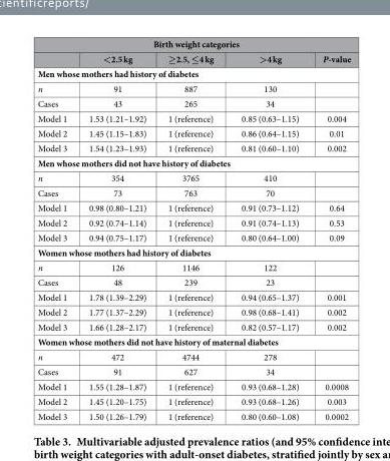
<table><thead><tr><td colspan="5">Birth weight categories</td></tr><tr><td></td><td>&lt;2.5 kg</td><td>≥2.5, ≤4 kg</td><td>&gt;4 kg</td><td>P-value</td></tr></thead><tbody><tr><td colspan="5">Men whose mothers had history of diabetes</td></tr><tr><td>n</td><td>91</td><td>887</td><td>130</td><td></td></tr><tr><td>Cases</td><td>43</td><td>265</td><td>34</td><td></td></tr><tr><td>Model 1</td><td>1.53 (1.21–1.92)</td><td>1 (reference)</td><td>0.85 (0.63–1.15)</td><td>0.004</td></tr><tr><td>Model 2</td><td>1.45 (1.15–1.83)</td><td>1 (reference)</td><td>0.86 (0.64–1.15)</td><td>0.01</td></tr><tr><td>Model 3</td><td>1.54 (1.23–1.93)</td><td>1 (reference)</td><td>0.81 (0.60–1.10)</td><td>0.002</td></tr><tr><td colspan="5">Men whose mothers did not have history of diabetes</td></tr><tr><td>n</td><td>354</td><td>3765</td><td>410</td><td></td></tr><tr><td>Cases</td><td>73</td><td>763</td><td>70</td><td></td></tr><tr><td>Model 1</td><td>0.98 (0.80–1.21)</td><td>1 (reference)</td><td>0.91 (0.73–1.12)</td><td>0.64</td></tr><tr><td>Model 2</td><td>0.92 (0.74–1.14)</td><td>1 (reference)</td><td>0.91 (0.74–1.13)</td><td>0.53</td></tr><tr><td>Model 3</td><td>0.94 (0.75–1.17)</td><td>1 (reference)</td><td>0.80 (0.64–1.00)</td><td>0.09</td></tr><tr><td colspan="5">Women whose mothers had history of diabetes</td></tr><tr><td>n</td><td>126</td><td>1146</td><td>122</td><td></td></tr><tr><td>Cases</td><td>48</td><td>239</td><td>23</td><td></td></tr><tr><td>Model 1</td><td>1.78 (1.39–2.29)</td><td>1 (reference)</td><td>0.94 (0.65–1.37)</td><td>0.001</td></tr><tr><td>Model 2</td><td>1.77 (1.37–2.29)</td><td>1 (reference)</td><td>0.98 (0.68–1.41)</td><td>0.002</td></tr><tr><td>Model 3</td><td>1.66 (1.28–2.17)</td><td>1 (reference)</td><td>0.82 (0.57–1.17)</td><td>0.002</td></tr><tr><td colspan="5">Women whose mothers did not have history of maternal diabetes</td></tr><tr><td>n</td><td>472</td><td>4744</td><td>278</td><td></td></tr><tr><td>Cases</td><td>91</td><td>627</td><td>34</td><td></td></tr><tr><td>Model 1</td><td>1.55 (1.28–1.87)</td><td>1 (reference)</td><td>0.93 (0.68–1.28)</td><td>0.0008</td></tr><tr><td>Model 2</td><td>1.45 (1.20–1.75)</td><td>1 (reference)</td><td>0.93 (0.68–1.26)</td><td>0.003</td></tr><tr><td>Model 3</td><td>1.50 (1.26–1.79)</td><td>1 (reference)</td><td>0.80 (0.60–1.08)</td><td>0.0002</td></tr></tbody></table>